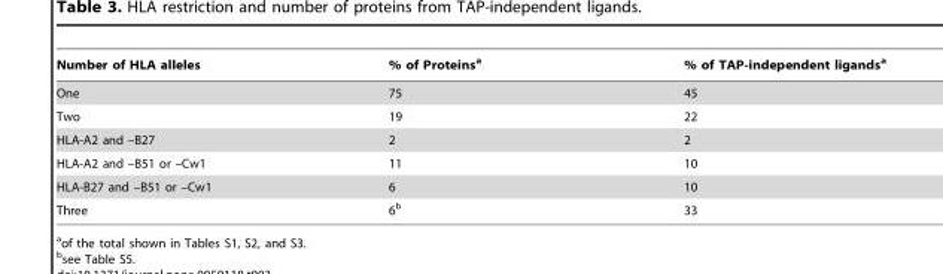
<table><thead><tr><td>Number of HLA alleles</td><td>% of Proteins<sup>a</sup></td><td>% of TAP-independent ligands<sup>a</sup></td></tr></thead><tbody><tr><td>One</td><td>75</td><td>45</td></tr><tr><td>Two</td><td>19</td><td>22</td></tr><tr><td>HLA-A2 and –B27</td><td>2</td><td>2</td></tr><tr><td>HLA-A2 and –B51 or –Cw1</td><td>11</td><td>10</td></tr><tr><td>HLA-B27 and –B51 or –Cw1</td><td>6</td><td>10</td></tr><tr><td>Three</td><td>6<sup>b</sup></td><td>33</td></tr></tbody></table>